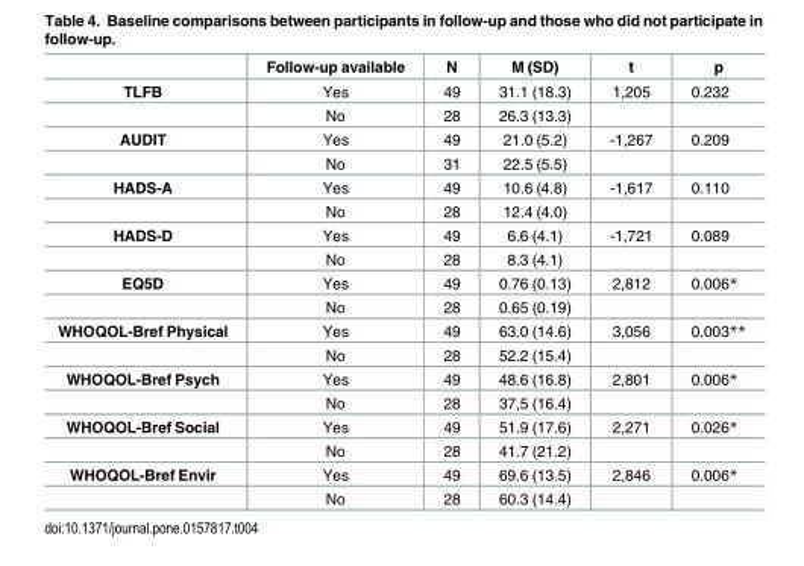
<table><thead><tr><td></td><td>Follow-up available</td><td>N</td><td>M (SD)</td><td>t</td><td>p</td></tr></thead><tbody><tr><td rowspan="2">TLFB</td><td>Yes</td><td>49</td><td>31.1 (18.3)</td><td>1,205</td><td>0.232</td></tr><tr><td>No</td><td>28</td><td>26.3 (13.3)</td><td></td><td></td></tr><tr><td rowspan="2">AUDIT</td><td>Yes</td><td>49</td><td>21.0 (5.2)</td><td>-1,267</td><td>0.209</td></tr><tr><td>No</td><td>31</td><td>22.5 (5.5)</td><td></td><td></td></tr><tr><td rowspan="2">HADS-A</td><td>Yes</td><td>49</td><td>10.6 (4.8)</td><td>-1,617</td><td>0.110</td></tr><tr><td>No</td><td>28</td><td>12.4 (4.0)</td><td></td><td></td></tr><tr><td rowspan="2">HADS-D</td><td>Yes</td><td>49</td><td>6.6 (4.1)</td><td>-1,721</td><td>0.089</td></tr><tr><td>No</td><td>28</td><td>8.3 (4.1)</td><td></td><td></td></tr><tr><td rowspan="2">EQ5D</td><td>Yes</td><td>49</td><td>0.76 (0.13)</td><td>2,812</td><td>0.006*</td></tr><tr><td>No</td><td>28</td><td>0.65 (0.19)</td><td></td><td></td></tr><tr><td rowspan="2">WHOQOL-Bref Physical</td><td>Yes</td><td>49</td><td>63.0 (14.6)</td><td>3,056</td><td>0.003**</td></tr><tr><td>No</td><td>28</td><td>52.2 (15.4)</td><td></td><td></td></tr><tr><td rowspan="2">WHOQOL-Bref Psych</td><td>Yes</td><td>49</td><td>48.6 (16.8)</td><td>2,801</td><td>0.006*</td></tr><tr><td>No</td><td>28</td><td>37,5 (16.4)</td><td></td><td></td></tr><tr><td rowspan="2">WHOQOL-Bref Social</td><td>Yes</td><td>49</td><td>51.9 (17.6)</td><td>2,271</td><td>0.026*</td></tr><tr><td>No</td><td>28</td><td>41.7 (21.2)</td><td></td><td></td></tr><tr><td rowspan="2">WHOQOL-Bref Envir</td><td>Yes</td><td>49</td><td>69.6 (13.5)</td><td>2,846</td><td>0.006*</td></tr><tr><td>No</td><td>28</td><td>60.3 (14.4)</td><td></td><td></td></tr></tbody></table>